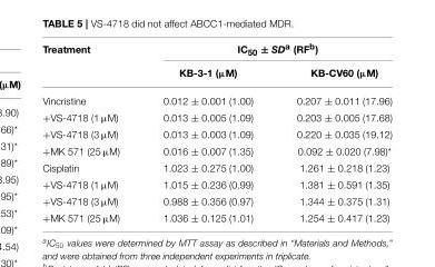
<table><thead><tr><td rowspan="2">Treatment</td><td colspan="2">IC<sub>50</sub> ± SD<sup>a</sup> (RF<sup>b</sup>)</td></tr><tr><td>KB-3-1 (µM)</td><td>KB-CV60 (µM)</td></tr></thead><tbody><tr><td>Vincristine</td><td>0.012 ± 0.001 (1.00)</td><td>0.207 ± 0.011 (17.96)</td></tr><tr><td>+VS-4718 (1 µM)</td><td>0.013 ± 0.005 (1.09)</td><td>0.203 ± 0.005 (17.68)</td></tr><tr><td>+VS-4718 (3 µM)</td><td>0.013 ± 0.003 (1.09)</td><td>0.220 ± 0.035 (19.12)</td></tr><tr><td>+MK 571 (25 µM)</td><td>0.016 ± 0.007 (1.35)</td><td>0.092 ± 0.020 (7.98)*</td></tr><tr><td>Cisplatin</td><td>1.023 ± 0.275 (1.00)</td><td>1.261 ± 0.218 (1.23)</td></tr><tr><td>+VS-4718 (1 µM)</td><td>1.015 ± 0.236 (0.99)</td><td>1.381 ± 0.591 (1.35)</td></tr><tr><td>+VS-4718 (3 µM)</td><td>0.988 ± 0.356 (0.97)</td><td>1.344 ± 0.375 (1.31)</td></tr><tr><td>+MK 571 (25 µM)</td><td>1.036 ± 0.125 (1.01)</td><td>1.254 ± 0.417 (1.23)</td></tr></tbody></table>